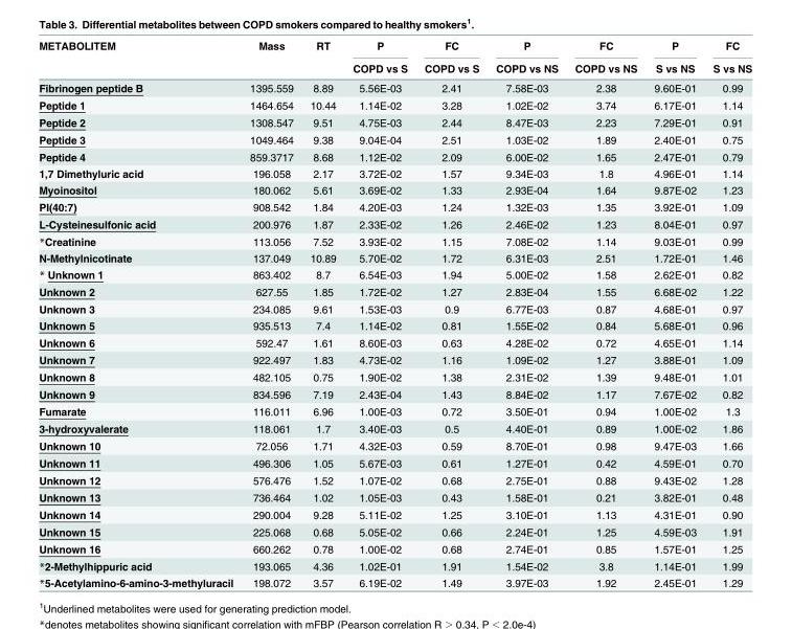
<table><thead><tr><td rowspan="2">METABOLITEM</td><td rowspan="2">Mass</td><td rowspan="2">RT</td><td rowspan="2">P COPD vs S</td><td rowspan="2">FC COPD vs S</td><td rowspan="2">P COPD vs NS</td><td rowspan="2">FC COPD vs NS</td><td rowspan="2">P S vs NS</td><td rowspan="2">FC S vs NS</td></tr><tr></tr></thead><tbody><tr><td>Fibrinogen peptide B</td><td>1395.559</td><td>8.89</td><td>5.56E-03</td><td>2.41</td><td>7.58E-03</td><td>2.38</td><td>9.60E-01</td><td>0.99</td></tr><tr><td>Peptide 1</td><td>1464.654</td><td>10.44</td><td>1.14E-02</td><td>3.28</td><td>1.02E-02</td><td>3.74</td><td>6.17E-01</td><td>1.14</td></tr><tr><td>Peptide 2</td><td>1308.547</td><td>9.51</td><td>4.75E-03</td><td>2.44</td><td>8.47E-03</td><td>2.23</td><td>7.29E-01</td><td>0.91</td></tr><tr><td>Peptide 3</td><td>1049.464</td><td>9.38</td><td>9.04E-04</td><td>2.51</td><td>1.03E-02</td><td>1.89</td><td>2.40E-01</td><td>0.75</td></tr><tr><td>Peptide 4</td><td>859.3717</td><td>8.68</td><td>1.12E-02</td><td>2.09</td><td>6.00E-02</td><td>1.65</td><td>2.47E-01</td><td>0.79</td></tr><tr><td>1,7 Dimethyluric acid</td><td>196.058</td><td>2.17</td><td>3.72E-02</td><td>1.57</td><td>9.34E-03</td><td>1.8</td><td>4.96E-01</td><td>1.14</td></tr><tr><td>Myoinositol</td><td>180.062</td><td>5.61</td><td>3.69E-02</td><td>1.33</td><td>2.93E-04</td><td>1.64</td><td>9.87E-02</td><td>1.23</td></tr><tr><td>PI(40:7)</td><td>908.542</td><td>1.84</td><td>4.20E-03</td><td>1.24</td><td>1.32E-03</td><td>1.35</td><td>3.92E-01</td><td>1.09</td></tr><tr><td>L-Cysteinesulfonic acid</td><td>200.976</td><td>1.87</td><td>2.33E-02</td><td>1.26</td><td>2.46E-02</td><td>1.23</td><td>8.04E-01</td><td>0.97</td></tr><tr><td>*Creatinine</td><td>113.056</td><td>7.52</td><td>3.93E-02</td><td>1.15</td><td>7.08E-02</td><td>1.14</td><td>9.03E-01</td><td>0.99</td></tr><tr><td>N-Methylnicotinate</td><td>137.049</td><td>10.89</td><td>5.70E-02</td><td>1.72</td><td>6.31E-03</td><td>2.51</td><td>1.72E-01</td><td>1.46</td></tr><tr><td>* Unknown 1</td><td>863.402</td><td>8.7</td><td>6.54E-03</td><td>1.94</td><td>5.00E-02</td><td>1.58</td><td>2.62E-01</td><td>0.82</td></tr><tr><td>Unknown 2</td><td>627.55</td><td>1.85</td><td>1.72E-02</td><td>1.27</td><td>2.83E-04</td><td>1.55</td><td>6.68E-02</td><td>1.22</td></tr><tr><td>Unknown 3</td><td>234.085</td><td>9.61</td><td>1.53E-03</td><td>0.9</td><td>6.77E-03</td><td>0.87</td><td>4.68E-01</td><td>0.97</td></tr><tr><td>Unknown 5</td><td>935.513</td><td>7.4</td><td>1.14E-02</td><td>0.81</td><td>1.55E-02</td><td>0.84</td><td>5.68E-01</td><td>0.96</td></tr><tr><td>Unknown 6</td><td>592.47</td><td>1.61</td><td>8.60E-03</td><td>0.63</td><td>4.28E-02</td><td>0.72</td><td>4.65E-01</td><td>1.14</td></tr><tr><td>Unknown 7</td><td>922.497</td><td>1.83</td><td>4.73E-02</td><td>1.16</td><td>1.09E-02</td><td>1.27</td><td>3.88E-01</td><td>1.09</td></tr><tr><td>Unknown 8</td><td>482.105</td><td>0.75</td><td>1.90E-02</td><td>1.38</td><td>2.31E-02</td><td>1.39</td><td>9.48E-01</td><td>1.01</td></tr><tr><td>Unknown 9</td><td>834.596</td><td>7.19</td><td>2.43E-04</td><td>1.43</td><td>8.84E-02</td><td>1.17</td><td>7.67E-02</td><td>0.82</td></tr><tr><td>Fumarate</td><td>116.011</td><td>6.96</td><td>1.00E-03</td><td>0.72</td><td>3.50E-01</td><td>0.94</td><td>1.00E-02</td><td>1.3</td></tr><tr><td>3-hydroxyvalerate</td><td>118.061</td><td>1.7</td><td>3.40E-03</td><td>0.5</td><td>4.40E-01</td><td>0.89</td><td>1.00E-02</td><td>1.86</td></tr><tr><td>Unknown 10</td><td>72.056</td><td>1.71</td><td>4.32E-03</td><td>0.59</td><td>8.70E-01</td><td>0.98</td><td>9.47E-03</td><td>1.66</td></tr><tr><td>Unknown 11</td><td>496.306</td><td>1.05</td><td>5.67E-03</td><td>0.61</td><td>1.27E-01</td><td>0.42</td><td>4.59E-01</td><td>0.70</td></tr><tr><td>Unknown 12</td><td>576.476</td><td>1.52</td><td>1.07E-02</td><td>0.68</td><td>2.75E-01</td><td>0.88</td><td>9.43E-02</td><td>1.28</td></tr><tr><td>Unknown 13</td><td>736.464</td><td>1.02</td><td>1.05E-03</td><td>0.43</td><td>1.58E-01</td><td>0.21</td><td>3.82E-01</td><td>0.48</td></tr><tr><td>Unknown 14</td><td>290.004</td><td>9.28</td><td>5.11E-02</td><td>1.25</td><td>3.10E-01</td><td>1.13</td><td>4.31E-01</td><td>0.90</td></tr><tr><td>Unknown 15</td><td>225.068</td><td>0.68</td><td>5.05E-02</td><td>0.66</td><td>2.24E-01</td><td>1.25</td><td>4.59E-03</td><td>1.91</td></tr><tr><td>Unknown 16</td><td>660.262</td><td>0.78</td><td>1.00E-02</td><td>0.68</td><td>2.74E-01</td><td>0.85</td><td>1.57E-01</td><td>1.25</td></tr><tr><td>*2-Methylhippuric acid</td><td>193.065</td><td>4.36</td><td>1.02E-01</td><td>1.91</td><td>1.54E-02</td><td>3.8</td><td>1.14E-01</td><td>1.99</td></tr><tr><td>*5-Acetylamino-6-amino-3-methyluracil</td><td>198.072</td><td>3.57</td><td>6.19E-02</td><td>1.49</td><td>3.97E-03</td><td>1.92</td><td>2.45E-01</td><td>1.29</td></tr></tbody></table>